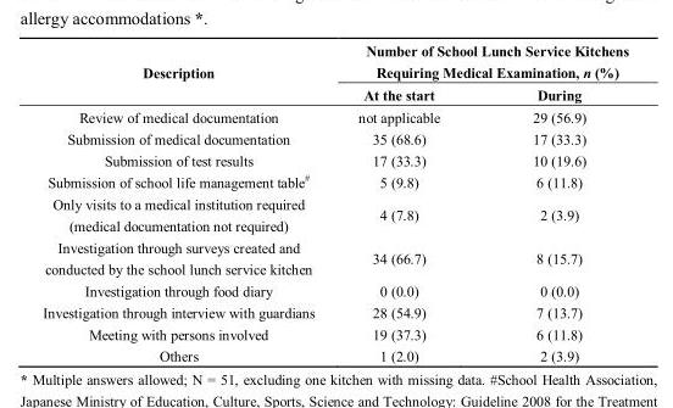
<table><thead><tr><td rowspan="2">Description</td><td colspan="2">Number of School Lunch Service Kitchens Requiring Medical Examination, n (%)</td></tr><tr><td>At the start</td><td>During</td></tr></thead><tbody><tr><td>Review of medical documentation</td><td>not applicable</td><td>29 (56.9)</td></tr><tr><td>Submission of medical documentation</td><td>35 (68.6)</td><td>17 (33.3)</td></tr><tr><td>Submission of test results</td><td>17 (33.3)</td><td>10 (19.6)</td></tr><tr><td>Submission of school life management table<sup>#</sup></td><td>5 (9.8)</td><td>6 (11.8)</td></tr><tr><td>Only visits to a medical institution required (medical documentation not required)</td><td>4 (7.8)</td><td>2 (3.9)</td></tr><tr><td>Investigation through surveys created and conducted by the school lunch service kitchen</td><td>34 (66.7)</td><td>8 (15.7)</td></tr><tr><td>Investigation through food diary</td><td>0 (0.0)</td><td>0 (0.0)</td></tr><tr><td>Investigation through interview with guardians</td><td>28 (54.9)</td><td>7 (13.7)</td></tr><tr><td>Meeting with persons involved</td><td>19 (37.3)</td><td>6 (11.8)</td></tr><tr><td>Others</td><td>1 (2.0)</td><td>2 (3.9)</td></tr></tbody></table>